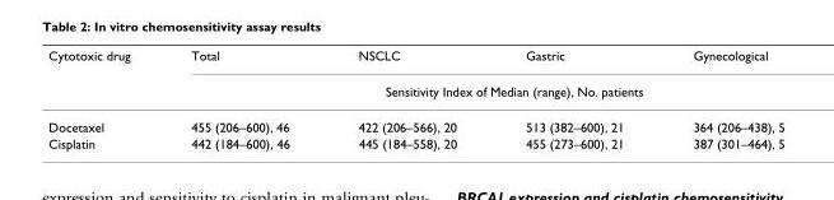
<table><thead><tr><td rowspan="2">Cytotoxic drug</td><td>Total</td><td>NSCLC</td><td>Gastric</td><td>Gynecological</td></tr><tr><td colspan="4">Sensitivity Index of Median (range), No. patients</td></tr></thead><tbody><tr><td>Docetaxel</td><td>455 (206–600), 46</td><td>422 (206–566), 20</td><td>513 (382–600), 21</td><td>364 (206–438), 5</td></tr><tr><td>Cisplatin</td><td>442 (184–600), 46</td><td>445 (184–558), 20</td><td>455 (273–600), 21</td><td>387 (301–464), 5</td></tr></tbody></table>